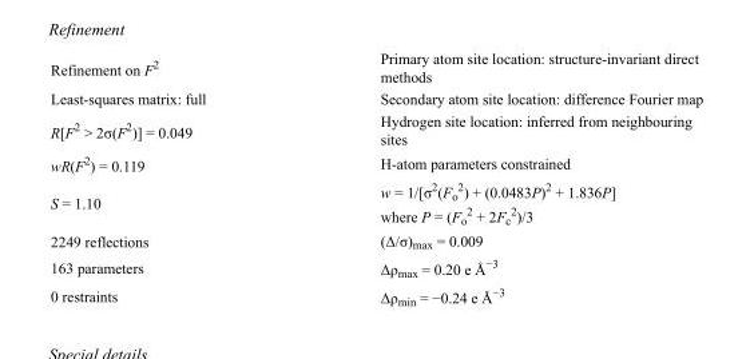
<table><tbody><tr><td>Refinement on F<sup>2</sup></td><td>Primary atom site location: structure-invariant direct methods</td></tr><tr><td>Least-squares matrix: full</td><td>Secondary atom site location: difference Fourier map</td></tr><tr><td>R[F<sup>2</sup> &gt; 2σ(F<sup>2</sup>)] = 0.049</td><td>Hydrogen site location: inferred from neighbouring sites</td></tr><tr><td>wR(F<sup>2</sup>) = 0.119</td><td>H-atom parameters constrained</td></tr><tr><td>S = 1.10</td><td>w = 1/[σ<sup>2</sup>(F<sub>o</sub> <sup>2</sup>) + (0.0483P)<sup>2</sup> + 1.836P] where P = (F<sub>o</sub> <sup>2</sup> + 2F<sub>c</sub> <sup>2</sup>)/3</td></tr><tr><td>2249 reflections</td><td>(Δ/σ)<sub>max</sub> = 0.009</td></tr><tr><td>163 parameters</td><td>Δρ<sub>max</sub> = 0.20 e Å<sup>−3</sup></td></tr><tr><td>0 restraints</td><td>Δρ<sub>min</sub> = −0.24 e Å<sup>−3</sup></td></tr></tbody></table>